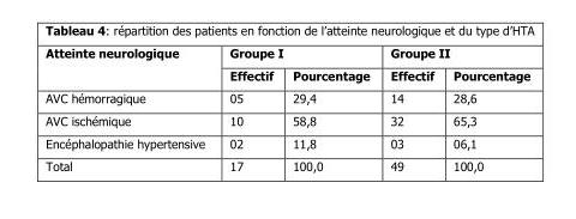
<table><thead><tr><td rowspan="2">Atteinte neurologique</td><td colspan="2">Groupe I</td><td colspan="2">Groupe II</td></tr><tr><td>Effectif</td><td>Pourcentage</td><td>Effectif</td><td>Pourcentage</td></tr></thead><tbody><tr><td>AVC hémorragique</td><td>05</td><td>29,4</td><td>14</td><td>28,6</td></tr><tr><td>AVC ischémique</td><td>10</td><td>58,8</td><td>32</td><td>65,3</td></tr><tr><td>Encéphalopathie hypertensive</td><td>02</td><td>11,8</td><td>03</td><td>06,1</td></tr><tr><td>Total</td><td>17</td><td>100,0</td><td>49</td><td>100,0</td></tr></tbody></table>